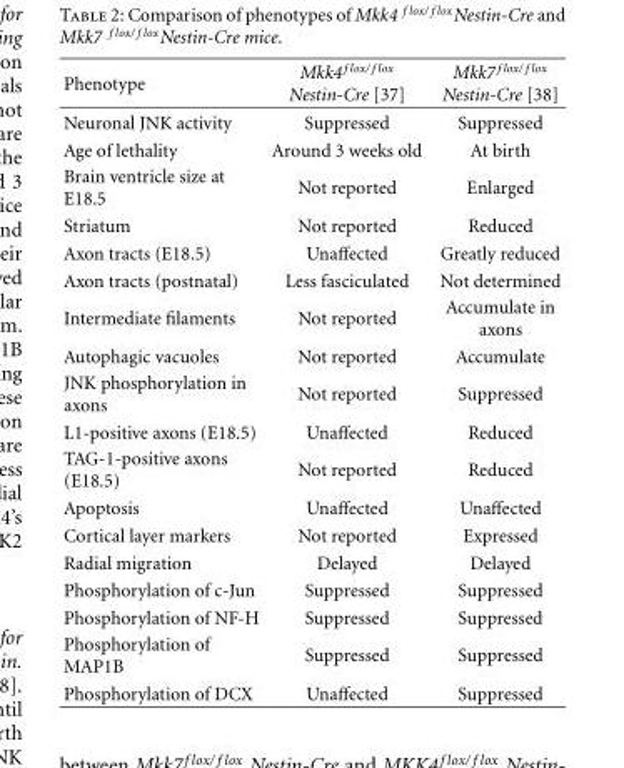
<table><thead><tr><td>Phenotype</td><td>Mkk4 <sup>f lox/ f lox</sup> Nestin-Cre [37]</td><td>Mkk7 <sup>f lox/ f lox</sup> Nestin-Cre [38]</td></tr></thead><tbody><tr><td>Neuronal JNK activity</td><td>Suppressed</td><td>Suppressed</td></tr><tr><td>Age of lethality</td><td>Around 3 weeks old</td><td>At birth</td></tr><tr><td>Brain ventricle size at E18.5</td><td>Not reported</td><td>Enlarged</td></tr><tr><td>Striatum</td><td>Not reported</td><td>Reduced</td></tr><tr><td>Axon tracts (E18.5)</td><td>Unaffected</td><td>Greatly reduced</td></tr><tr><td>Axon tracts (postnatal)</td><td>Less fasciculated</td><td>Not determined</td></tr><tr><td>Intermediate filaments</td><td>Not reported</td><td>Accumulate in axons</td></tr><tr><td>Autophagic vacuoles</td><td>Not reported</td><td>Accumulate</td></tr><tr><td>JNK phosphorylation in axons</td><td>Not reported</td><td>Suppressed</td></tr><tr><td>L1-positive axons (E18.5)</td><td>Unaffected</td><td>Reduced</td></tr><tr><td>TAG-1-positive axons (E18.5)</td><td>Not reported</td><td>Reduced</td></tr><tr><td>Apoptosis</td><td>Unaffected</td><td>Unaffected</td></tr><tr><td>Cortical layer markers</td><td>Not reported</td><td>Expressed</td></tr><tr><td>Radial migration</td><td>Delayed</td><td>Delayed</td></tr><tr><td>Phosphorylation of c-Jun</td><td>Suppressed</td><td>Suppressed</td></tr><tr><td>Phosphorylation of NF-H</td><td>Suppressed</td><td>Suppressed</td></tr><tr><td>Phosphorylation of MAP1B</td><td>Suppressed</td><td>Suppressed</td></tr><tr><td>Phosphorylation of DCX</td><td>Unaffected</td><td>Suppressed</td></tr></tbody></table>